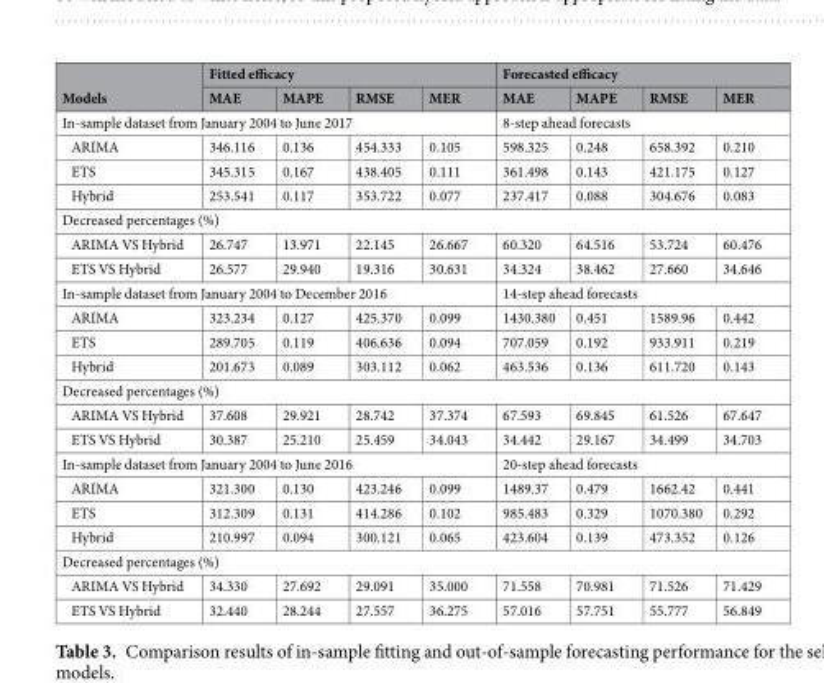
<table><thead><tr><td rowspan="2">Models</td><td colspan="4">Fitted efficacy</td><td colspan="4">Forecasted efficacy</td></tr><tr><td>MAE</td><td>MAPE</td><td>RMSE</td><td>MER</td><td>MAE</td><td>MAPE</td><td>RMSE</td><td>MER</td></tr></thead><tbody><tr><td colspan="5">In-sample dataset from January 2004 to June 2017</td><td colspan="4">8-step ahead forecasts</td></tr><tr><td>ARIMA</td><td>346.116</td><td>0.136</td><td>454.333</td><td>0.105</td><td>598.325</td><td>0.248</td><td>658.392</td><td>0.210</td></tr><tr><td>ETS</td><td>345.315</td><td>0.167</td><td>438.405</td><td>0.111</td><td>361.498</td><td>0.143</td><td>421.175</td><td>0.127</td></tr><tr><td>Hybrid</td><td>253.541</td><td>0.117</td><td>353.722</td><td>0.077</td><td>237.417</td><td>0.088</td><td>304.676</td><td>0.083</td></tr><tr><td colspan="9">Decreased percentages (%)</td></tr><tr><td>ARIMA VS Hybrid</td><td>26.747</td><td>13.971</td><td>22.145</td><td>26.667</td><td>60.320</td><td>64.516</td><td>53.724</td><td>60.476</td></tr><tr><td>ETS VS Hybrid</td><td>26.577</td><td>29.940</td><td>19.316</td><td>30.631</td><td>34.324</td><td>38.462</td><td>27.660</td><td>34.646</td></tr><tr><td colspan="5">In-sample dataset from January 2004 to December 2016</td><td colspan="4">14-step ahead forecasts</td></tr><tr><td>ARIMA</td><td>323.234</td><td>0.127</td><td>425.370</td><td>0.099</td><td>1430.380</td><td>0.451</td><td>1589.96</td><td>0.442</td></tr><tr><td>ETS</td><td>289.705</td><td>0.119</td><td>406.636</td><td>0.094</td><td>707.059</td><td>0.192</td><td>933.911</td><td>0.219</td></tr><tr><td>Hybrid</td><td>201.673</td><td>0.089</td><td>303.112</td><td>0.062</td><td>463.536</td><td>0.136</td><td>611.720</td><td>0.143</td></tr><tr><td colspan="9">Decreased percentages (%)</td></tr><tr><td>ARIMA VS Hybrid</td><td>37.608</td><td>29.921</td><td>28.742</td><td>37.374</td><td>67.593</td><td>69.845</td><td>61.526</td><td>67.647</td></tr><tr><td>ETS VS Hybrid</td><td>30.387</td><td>25.210</td><td>25.459</td><td>34.043</td><td>34.442</td><td>29.167</td><td>34.499</td><td>34.703</td></tr><tr><td colspan="5">In-sample dataset from January 2004 to June 2016</td><td colspan="4">20-step ahead forecasts</td></tr><tr><td>ARIMA</td><td>321.300</td><td>0.130</td><td>423.246</td><td>0.099</td><td>1489.37</td><td>0.479</td><td>1662.42</td><td>0.441</td></tr><tr><td>ETS</td><td>312.309</td><td>0.131</td><td>414.286</td><td>0.102</td><td>985.483</td><td>0.329</td><td>1070.380</td><td>0.292</td></tr><tr><td>Hybrid</td><td>210.997</td><td>0.094</td><td>300.121</td><td>0.065</td><td>423.604</td><td>0.139</td><td>473.352</td><td>0.126</td></tr><tr><td colspan="9">Decreased percentages (%)</td></tr><tr><td>ARIMA VS Hybrid</td><td>34.330</td><td>27.692</td><td>29.091</td><td>35.000</td><td>71.558</td><td>70.981</td><td>71.526</td><td>71.429</td></tr><tr><td>ETS VS Hybrid</td><td>32.440</td><td>28.244</td><td>27.557</td><td>36.275</td><td>57.016</td><td>57.751</td><td>55.777</td><td>56.849</td></tr></tbody></table>